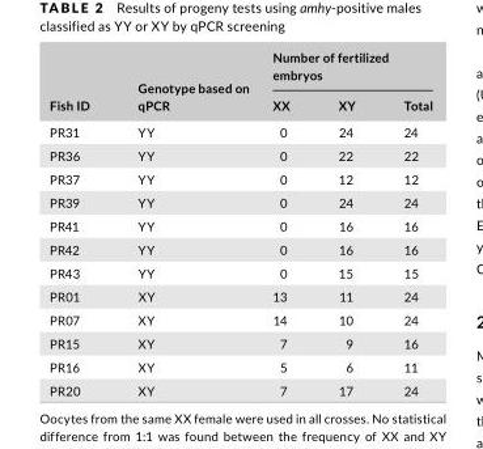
<table><thead><tr><td rowspan="2">Fish ID</td><td rowspan="2">Genotype based on qPCR</td><td colspan="3">Number of fertilized embryos</td></tr><tr><td>XX</td><td>XY</td><td>Total</td></tr></thead><tbody><tr><td>PR31</td><td>YY</td><td>0</td><td>24</td><td>24</td></tr><tr><td>PR36</td><td>YY</td><td>0</td><td>22</td><td>22</td></tr><tr><td>PR37</td><td>YY</td><td>0</td><td>12</td><td>12</td></tr><tr><td>PR39</td><td>YY</td><td>0</td><td>24</td><td>24</td></tr><tr><td>PR41</td><td>YY</td><td>0</td><td>16</td><td>16</td></tr><tr><td>PR42</td><td>YY</td><td>0</td><td>16</td><td>16</td></tr><tr><td>PR43</td><td>YY</td><td>0</td><td>15</td><td>15</td></tr><tr><td>PR01</td><td>XY</td><td>13</td><td>11</td><td>24</td></tr><tr><td>PR07</td><td>XY</td><td>14</td><td>10</td><td>24</td></tr><tr><td>PR15</td><td>XY</td><td>7</td><td>9</td><td>16</td></tr><tr><td>PR16</td><td>XY</td><td>5</td><td>6</td><td>11</td></tr><tr><td>PR20</td><td>XY</td><td>7</td><td>17</td><td>24</td></tr></tbody></table>